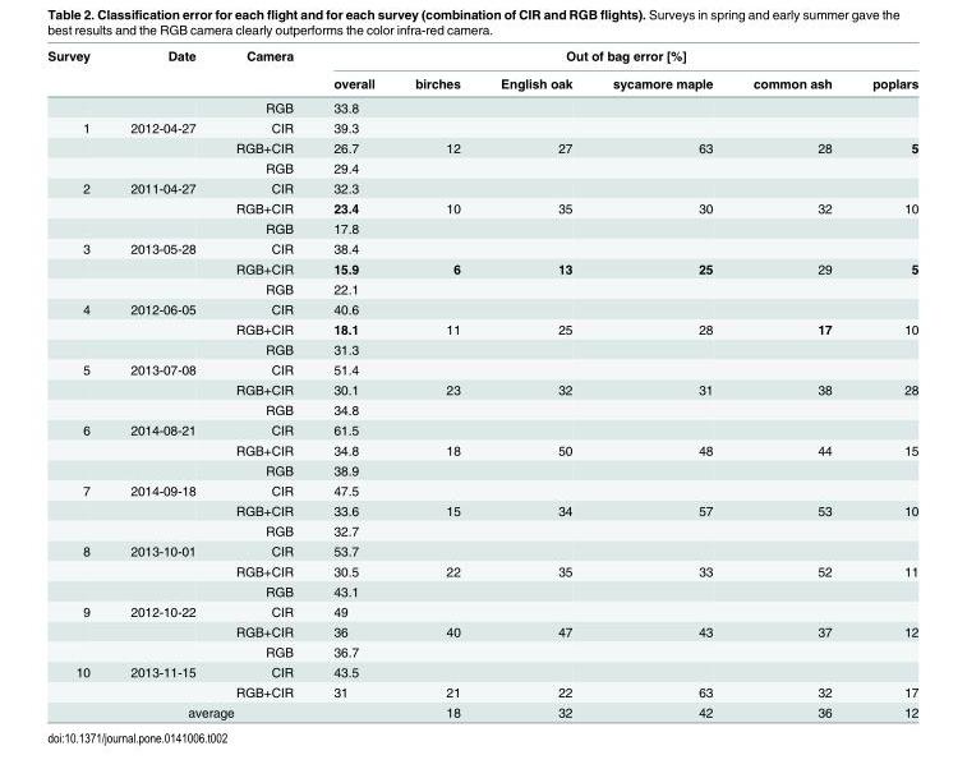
<table><thead><tr><td rowspan="2">Survey</td><td rowspan="2">Date</td><td rowspan="2">Camera</td><td colspan="6">Out of bag error [%]</td></tr><tr><td>overall</td><td>birches</td><td>English oak</td><td>sycamore maple</td><td>common ash</td><td>poplars</td></tr></thead><tbody><tr><td></td><td></td><td>RGB</td><td>33.8</td><td></td><td></td><td></td><td></td><td></td></tr><tr><td rowspan="3">1</td><td>2012-04-27</td><td>CIR</td><td>39.3</td><td></td><td></td><td></td><td></td><td></td></tr><tr><td></td><td>RGB+CIR</td><td>26.7</td><td>12</td><td>27</td><td>63</td><td>28</td><td>5</td></tr><tr><td></td><td>RGB</td><td>29.4</td><td></td><td></td><td></td><td></td><td></td></tr><tr><td rowspan="3">2</td><td>2011-04-27</td><td>CIR</td><td>32.3</td><td></td><td></td><td></td><td></td><td></td></tr><tr><td></td><td>RGB+CIR</td><td>23.4</td><td>10</td><td>35</td><td>30</td><td>32</td><td>10</td></tr><tr><td></td><td>RGB</td><td>17.8</td><td></td><td></td><td></td><td></td><td></td></tr><tr><td rowspan="3">3</td><td>2013-05-28</td><td>CIR</td><td>38.4</td><td></td><td></td><td></td><td></td><td></td></tr><tr><td></td><td>RGB+CIR</td><td>15.9</td><td>6</td><td>13</td><td>25</td><td>29</td><td>5</td></tr><tr><td></td><td>RGB</td><td>22.1</td><td></td><td></td><td></td><td></td><td></td></tr><tr><td rowspan="3">4</td><td>2012-06-05</td><td>CIR</td><td>40.6</td><td></td><td></td><td></td><td></td><td></td></tr><tr><td></td><td>RGB+CIR</td><td>18.1</td><td>11</td><td>25</td><td>28</td><td>17</td><td>10</td></tr><tr><td></td><td>RGB</td><td>31.3</td><td></td><td></td><td></td><td></td><td></td></tr><tr><td rowspan="3">5</td><td>2013-07-08</td><td>CIR</td><td>51.4</td><td></td><td></td><td></td><td></td><td></td></tr><tr><td></td><td>RGB+CIR</td><td>30.1</td><td>23</td><td>32</td><td>31</td><td>38</td><td>28</td></tr><tr><td></td><td>RGB</td><td>34.8</td><td></td><td></td><td></td><td></td><td></td></tr><tr><td rowspan="3">6</td><td>2014-08-21</td><td>CIR</td><td>61.5</td><td></td><td></td><td></td><td></td><td></td></tr><tr><td></td><td>RGB+CIR</td><td>34.8</td><td>18</td><td>50</td><td>48</td><td>44</td><td>15</td></tr><tr><td></td><td>RGB</td><td>38.9</td><td></td><td></td><td></td><td></td><td></td></tr><tr><td rowspan="3">7</td><td>2014-09-18</td><td>CIR</td><td>47.5</td><td></td><td></td><td></td><td></td><td></td></tr><tr><td></td><td>RGB+CIR</td><td>33.6</td><td>15</td><td>34</td><td>57</td><td>53</td><td>10</td></tr><tr><td></td><td>RGB</td><td>32.7</td><td></td><td></td><td></td><td></td><td></td></tr><tr><td rowspan="3">8</td><td>2013-10-01</td><td>CIR</td><td>53.7</td><td></td><td></td><td></td><td></td><td></td></tr><tr><td></td><td>RGB+CIR</td><td>30.5</td><td>22</td><td>35</td><td>33</td><td>52</td><td>11</td></tr><tr><td></td><td>RGB</td><td>43.1</td><td></td><td></td><td></td><td></td><td></td></tr><tr><td rowspan="3">9</td><td>2012-10-22</td><td>CIR</td><td>49</td><td></td><td></td><td></td><td></td><td></td></tr><tr><td></td><td>RGB+CIR</td><td>36</td><td>40</td><td>47</td><td>43</td><td>37</td><td>12</td></tr><tr><td></td><td>RGB</td><td>36.7</td><td></td><td></td><td></td><td></td><td></td></tr><tr><td rowspan="2">10</td><td>2013-11-15</td><td>CIR</td><td>43.5</td><td></td><td></td><td></td><td></td><td></td></tr><tr><td></td><td>RGB+CIR</td><td>31</td><td>21</td><td>22</td><td>63</td><td>32</td><td>17</td></tr><tr><td colspan="4">average</td><td>18</td><td>32</td><td>42</td><td>36</td><td>12</td></tr></tbody></table>